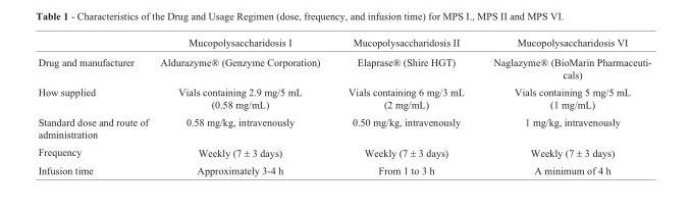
<table><thead><tr><td></td><td>Mucopolysaccharidosis I</td><td>Mucopolysaccharidosis II</td><td>Mucopolysaccharidosis VI</td></tr></thead><tbody><tr><td>Drug and manufacturer</td><td>Aldurazyme® (Genzyme Corporation)</td><td>Elaprase® (Shire HGT)</td><td>Naglazyme® (BioMarin Pharmaceuti- cals)</td></tr><tr><td>How supplied</td><td>Vials containing 2.9 mg/5 mL (0.58 mg/mL)</td><td>Vials containing 6 mg/3 mL (2 mg/mL)</td><td>Vials containing 5 mg/5 mL (1 mg/mL)</td></tr><tr><td>Standard dose and route of administration</td><td>0.58 mg/kg, intravenously</td><td>0.50 mg/kg, intravenously</td><td>1 mg/kg, intravenously</td></tr><tr><td>Frequency</td><td>Weekly (7 ± 3 days)</td><td>Weekly (7 ± 3 days)</td><td>Weekly (7 ± 3 days)</td></tr><tr><td>Infusion time</td><td>Approximately 3-4 h</td><td>From 1 to 3 h</td><td>A minimum of 4 h</td></tr></tbody></table>